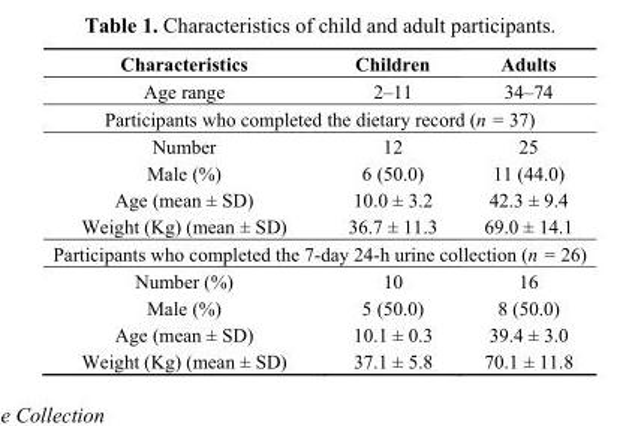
<table><thead><tr><td>Characteristics</td><td>Children</td><td>Adults</td></tr></thead><tbody><tr><td>Age range</td><td>2–11</td><td>34–74</td></tr><tr><td colspan="3">Participants who completed the dietary record (n = 37)</td></tr><tr><td>Number</td><td>12</td><td>25</td></tr><tr><td>Male (%)</td><td>6 (50.0)</td><td>11 (44.0)</td></tr><tr><td>Age (mean ± SD)</td><td>10.0 ± 3.2</td><td>42.3 ± 9.4</td></tr><tr><td>Weight (Kg) (mean ± SD)</td><td>36.7 ± 11.3</td><td>69.0 ± 14.1</td></tr><tr><td colspan="3">Participants who completed the 7-day 24-h urine collection (n = 26)</td></tr><tr><td>Number (%)</td><td>10</td><td>16</td></tr><tr><td>Male (%)</td><td>5 (50.0)</td><td>8 (50.0)</td></tr><tr><td>Age (mean ± SD)</td><td>10.1 ± 0.3</td><td>39.4 ± 3.0</td></tr><tr><td>Weight (Kg) (mean ± SD)</td><td>37.1 ± 5.8</td><td>70.1 ± 11.8</td></tr></tbody></table>